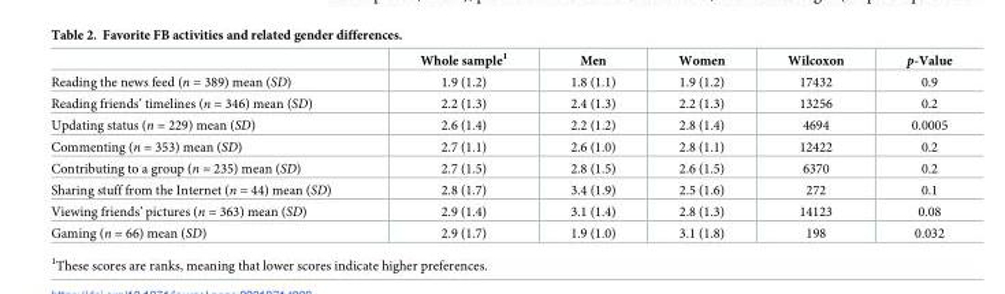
<table><thead><tr><td></td><td>Whole sample<sup>1</sup></td><td>Men</td><td>Women</td><td>Wilcoxon</td><td>p-Value</td></tr></thead><tbody><tr><td>Reading the news feed (n = 389) mean (SD)</td><td>1.9 (1.2)</td><td>1.8 (1.1)</td><td>1.9 (1.2)</td><td>17432</td><td>0.9</td></tr><tr><td>Reading friends’ timelines (n = 346) mean (SD)</td><td>2.2 (1.3)</td><td>2.4 (1.3)</td><td>2.2 (1.3)</td><td>13256</td><td>0.2</td></tr><tr><td>Updating status (n = 229) mean (SD)</td><td>2.6 (1.4)</td><td>2.2 (1.2)</td><td>2.8 (1.4)</td><td>4694</td><td>0.0005</td></tr><tr><td>Commenting (n = 353) mean (SD)</td><td>2.7 (1.1)</td><td>2.6 (1.0)</td><td>2.8 (1.1)</td><td>12422</td><td>0.2</td></tr><tr><td>Contributing to a group (n = 235) mean (SD)</td><td>2.7 (1.5)</td><td>2.8 (1.5)</td><td>2.6 (1.5)</td><td>6370</td><td>0.2</td></tr><tr><td>Sharing stuff from the Internet (n = 44) mean (SD)</td><td>2.8 (1.7)</td><td>3.4 (1.9)</td><td>2.5 (1.6)</td><td>272</td><td>0.1</td></tr><tr><td>Viewing friends’ pictures (n = 363) mean (SD)</td><td>2.9 (1.4)</td><td>3.1 (1.4)</td><td>2.8 (1.3)</td><td>14123</td><td>0.08</td></tr><tr><td>Gaming (n = 66) mean (SD)</td><td>2.9 (1.7)</td><td>1.9 (1.0)</td><td>3.1 (1.8)</td><td>198</td><td>0.032</td></tr></tbody></table>